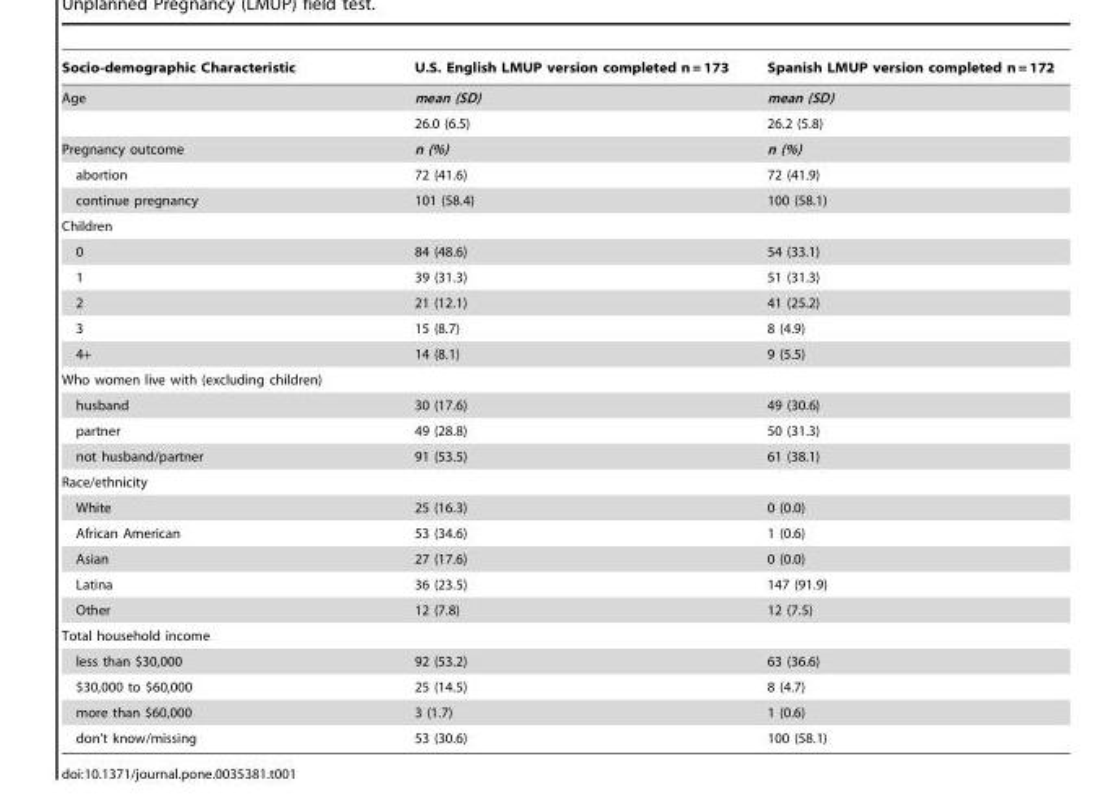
<table><thead><tr><td>Socio-demographic Characteristic</td><td>U.S. English LMUP version completed n = 173</td><td>Spanish LMUP version completed n = 172</td></tr></thead><tbody><tr><td rowspan="2">Age</td><td>mean (SD)</td><td>mean (SD)</td></tr><tr><td>26.0 (6.5)</td><td>26.2 (5.8)</td></tr><tr><td>Pregnancy outcome</td><td>n (%)</td><td>n (%)</td></tr><tr><td>abortion</td><td>72 (41.6)</td><td>72 (41.9)</td></tr><tr><td>continue pregnancy</td><td>101 (58.4)</td><td>100 (58.1)</td></tr><tr><td colspan="3">Children</td></tr><tr><td>0</td><td>84 (48.6)</td><td>54 (33.1)</td></tr><tr><td>1</td><td>39 (31.3)</td><td>51 (31.3)</td></tr><tr><td>2</td><td>21 (12.1)</td><td>41 (25.2)</td></tr><tr><td>3</td><td>15 (8.7)</td><td>8 (4.9)</td></tr><tr><td>4+</td><td>14 (8.1)</td><td>9 (5.5)</td></tr><tr><td colspan="3">Who women live with (excluding children)</td></tr><tr><td>husband</td><td>30 (17.6)</td><td>49 (30.6)</td></tr><tr><td>partner</td><td>49 (28.8)</td><td>50 (31.3)</td></tr><tr><td>not husband/partner</td><td>91 (53.5)</td><td>61 (38.1)</td></tr><tr><td colspan="3">Race/ethnicity</td></tr><tr><td>White</td><td>25 (16.3)</td><td>0 (0.0)</td></tr><tr><td>African American</td><td>53 (34.6)</td><td>1 (0.6)</td></tr><tr><td>Asian</td><td>27 (17.6)</td><td>0 (0.0)</td></tr><tr><td>Latina</td><td>36 (23.5)</td><td>147 (91.9)</td></tr><tr><td>Other</td><td>12 (7.8)</td><td>12 (7.5)</td></tr><tr><td colspan="3">Total household income</td></tr><tr><td>less than $30,000</td><td>92 (53.2)</td><td>63 (36.6)</td></tr><tr><td>$30,000 to $60,000</td><td>25 (14.5)</td><td>8 (4.7)</td></tr><tr><td>more than $60,000</td><td>3 (1.7)</td><td>1 (0.6)</td></tr><tr><td>don’t know/missing</td><td>53 (30.6)</td><td>100 (58.1)</td></tr></tbody></table>